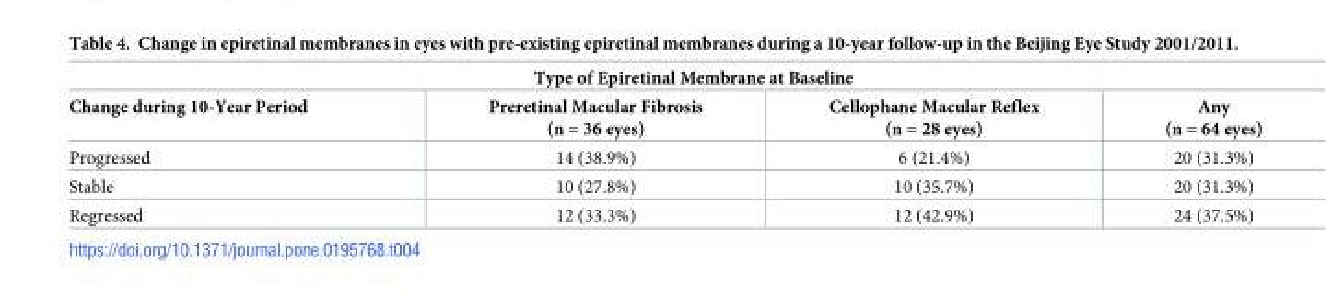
<table><thead><tr><td colspan="4">Type of Epiretinal Membrane at Baseline</td></tr><tr><td>Change during 10-Year Period</td><td>Preretinal Macular Fibrosis (n = 36 eyes)</td><td>Cellophane Macular Reflex (n = 28 eyes)</td><td>Any (n = 64 eyes)</td></tr></thead><tbody><tr><td>Progressed</td><td>14 (38.9%)</td><td>6 (21.4%)</td><td>20 (31.3%)</td></tr><tr><td>Stable</td><td>10 (27.8%)</td><td>10 (35.7%)</td><td>20 (31.3%)</td></tr><tr><td>Regressed</td><td>12 (33.3%)</td><td>12 (42.9%)</td><td>24 (37.5%)</td></tr></tbody></table>